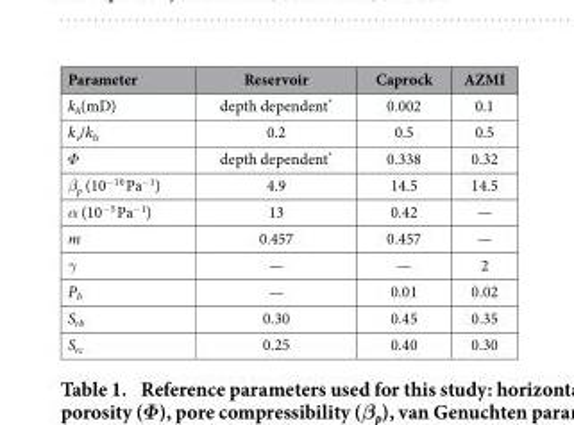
<table><thead><tr><td>Parameter</td><td>Reservoir</td><td>Caprock</td><td>AZMI</td></tr></thead><tbody><tr><td>k<sub>h</sub>(mD)</td><td>depth dependent*</td><td>0.002</td><td>0.1</td></tr><tr><td>k<sub>v</sub>/k<sub>h</sub></td><td>0.2</td><td>0.5</td><td>0.5</td></tr><tr><td>Φ</td><td>depth dependent*</td><td>0.338</td><td>0.32</td></tr><tr><td>β<sub>p</sub> (10<sup>−10</sup> Pa<sup>−1</sup>)</td><td>4.9</td><td>14.5</td><td>14.5</td></tr><tr><td>α (10<sup>−5</sup> Pa<sup>−1</sup>)</td><td>13</td><td>0.42</td><td>—</td></tr><tr><td>m</td><td>0.457</td><td>0.457</td><td>—</td></tr><tr><td>γ</td><td>—</td><td>—</td><td>2</td></tr><tr><td>P<sub>b</sub></td><td>—</td><td>0.01</td><td>0.02</td></tr><tr><td>S<sub>rb</sub></td><td>0.30</td><td>0.45</td><td>0.35</td></tr><tr><td>S<sub>rc</sub></td><td>0.25</td><td>0.40</td><td>0.30</td></tr></tbody></table>